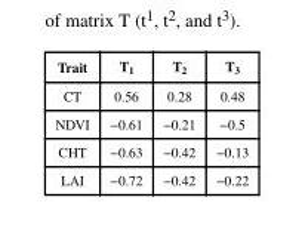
<table><thead><tr><td>Trait</td><td>T<sub>1</sub></td><td>T<sub>2</sub></td><td>T<sub>3</sub></td></tr></thead><tbody><tr><td>CT</td><td>0.56</td><td>0.28</td><td>0.48</td></tr><tr><td>NDVI</td><td>−0.61</td><td>−0.21</td><td>−0.5</td></tr><tr><td>CHT</td><td>−0.63</td><td>−0.42</td><td>−0.13</td></tr><tr><td>LAI</td><td>−0.72</td><td>−0.42</td><td>−0.22</td></tr></tbody></table>